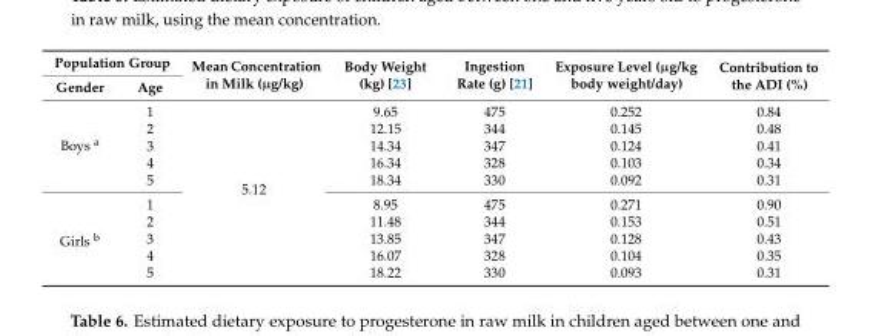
<table><thead><tr><td colspan="2">Population Group</td><td rowspan="2">Mean Concentration in Milk (µg/kg)</td><td rowspan="2">Body Weight (kg) [23]</td><td rowspan="2">Ingestion Rate (g) [21]</td><td rowspan="2">Exposure Level (µg/kg body weight/day)</td><td rowspan="2">Contribution to the ADI (%)</td></tr><tr><td>Gender</td><td>Age</td></tr></thead><tbody><tr><td rowspan="5">Boys <sup>a</sup></td><td>1</td><td rowspan="10">5.12</td><td>9.65</td><td>475</td><td>0.252</td><td>0.84</td></tr><tr><td>2</td><td>12.15</td><td>344</td><td>0.145</td><td>0.48</td></tr><tr><td>3</td><td>14.34</td><td>347</td><td>0.124</td><td>0.41</td></tr><tr><td>4</td><td>16.34</td><td>328</td><td>0.103</td><td>0.34</td></tr><tr><td>5</td><td>18.34</td><td>330</td><td>0.092</td><td>0.31</td></tr><tr><td rowspan="5">Girls <sup>b</sup></td><td>1</td><td>8.95</td><td>475</td><td>0.271</td><td>0.90</td></tr><tr><td>2</td><td>11.48</td><td>344</td><td>0.153</td><td>0.51</td></tr><tr><td>3</td><td>13.85</td><td>347</td><td>0.128</td><td>0.43</td></tr><tr><td>4</td><td>16.07</td><td>328</td><td>0.104</td><td>0.35</td></tr><tr><td>5</td><td>18.22</td><td>330</td><td>0.093</td><td>0.31</td></tr></tbody></table>